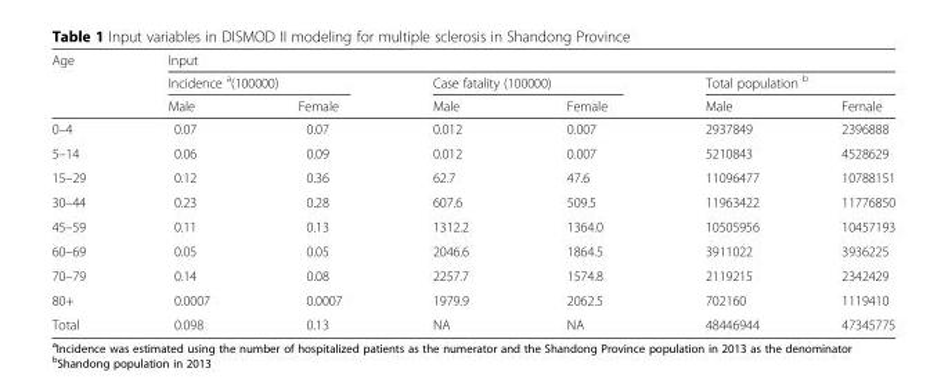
<table><thead><tr><td rowspan="3">Age</td><td colspan="6">Input</td></tr><tr><td colspan="2">Incidence <sup>a</sup>(100000)</td><td colspan="2">Case fatality (100000)</td><td colspan="2">Total population <sup>b</sup></td></tr><tr><td>Male</td><td>Female</td><td>Male</td><td>Female</td><td>Male</td><td>Female</td></tr></thead><tbody><tr><td>0–4</td><td>0.07</td><td>0.07</td><td>0.012</td><td>0.007</td><td>2937849</td><td>2396888</td></tr><tr><td>5–14</td><td>0.06</td><td>0.09</td><td>0.012</td><td>0.007</td><td>5210843</td><td>4528629</td></tr><tr><td>15–29</td><td>0.12</td><td>0.36</td><td>62.7</td><td>47.6</td><td>11096477</td><td>10788151</td></tr><tr><td>30–44</td><td>0.23</td><td>0.28</td><td>607.6</td><td>509.5</td><td>11963422</td><td>11776850</td></tr><tr><td>45–59</td><td>0.11</td><td>0.13</td><td>1312.2</td><td>1364.0</td><td>10505956</td><td>10457193</td></tr><tr><td>60–69</td><td>0.05</td><td>0.05</td><td>2046.6</td><td>1864.5</td><td>3911022</td><td>3936225</td></tr><tr><td>70–79</td><td>0.14</td><td>0.08</td><td>2257.7</td><td>1574.8</td><td>2119215</td><td>2342429</td></tr><tr><td>80+</td><td>0.0007</td><td>0.0007</td><td>1979.9</td><td>2062.5</td><td>702160</td><td>1119410</td></tr><tr><td>Total</td><td>0.098</td><td>0.13</td><td>NA</td><td>NA</td><td>48446944</td><td>47345775</td></tr></tbody></table>